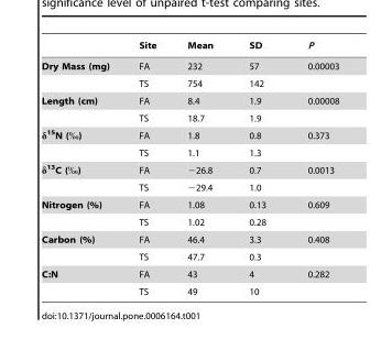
<table><thead><tr><td></td><td>Site</td><td>Mean</td><td>SD</td><td>P</td></tr></thead><tbody><tr><td rowspan="2">Dry Mass (mg)</td><td>FA</td><td>232</td><td>57</td><td>0.00003</td></tr><tr><td>TS</td><td>754</td><td>142</td><td></td></tr><tr><td rowspan="2">Length (cm)</td><td>FA</td><td>8.4</td><td>1.9</td><td>0.00008</td></tr><tr><td>TS</td><td>18.7</td><td>1.9</td><td></td></tr><tr><td rowspan="2">δ<sup>15</sup>N (‰)</td><td>FA</td><td>1.8</td><td>0.8</td><td>0.373</td></tr><tr><td>TS</td><td>1.1</td><td>1.3</td><td></td></tr><tr><td rowspan="2">δ<sup>13</sup>C (‰)</td><td>FA</td><td>−26.8</td><td>0.7</td><td>0.0013</td></tr><tr><td>TS</td><td>−29.4</td><td>1.0</td><td></td></tr><tr><td rowspan="2">Nitrogen (%)</td><td>FA</td><td>1.08</td><td>0.13</td><td>0.609</td></tr><tr><td>TS</td><td>1.02</td><td>0.28</td><td></td></tr><tr><td rowspan="2">Carbon (%)</td><td>FA</td><td>46.4</td><td>3.3</td><td>0.408</td></tr><tr><td>TS</td><td>47.7</td><td>0.3</td><td></td></tr><tr><td rowspan="2">C:N</td><td>FA</td><td>43</td><td>4</td><td>0.282</td></tr><tr><td>TS</td><td>49</td><td>10</td><td></td></tr></tbody></table>